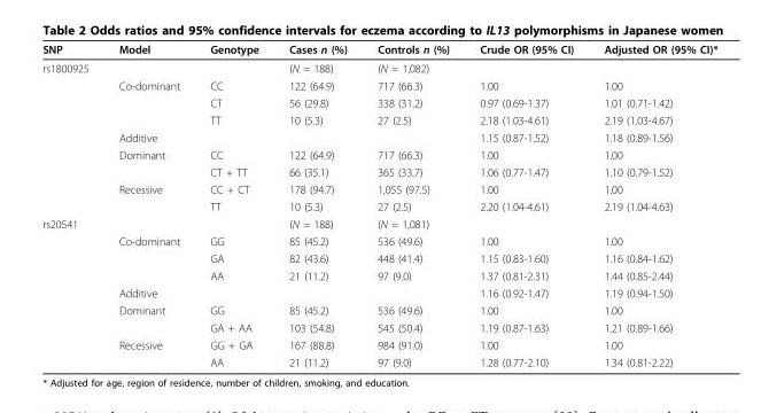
<table><thead><tr><td>SNP</td><td>Model</td><td>Genotype</td><td>Cases n (%)</td><td>Controls n (%)</td><td>Crude OR (95% CI)</td><td>Adjusted OR (95% CI)*</td></tr></thead><tbody><tr><td rowspan="9">rs1800925</td><td></td><td></td><td>(N = 188)</td><td>(N = 1,082)</td><td></td><td></td></tr><tr><td>Co-dominant</td><td>CC</td><td>122 (64.9)</td><td>717 (66.3)</td><td>1.00</td><td>1.00</td></tr><tr><td></td><td>CT</td><td>56 (29.8)</td><td>338 (31.2)</td><td>0.97 (0.69-1.37)</td><td>1.01 (0.71-1.42)</td></tr><tr><td></td><td>TT</td><td>10 (5.3)</td><td>27 (2.5)</td><td>2.18 (1.03-4.61)</td><td>2.19 (1.03-4.67)</td></tr><tr><td>Additive</td><td></td><td></td><td></td><td>1.15 (0.87-1.52)</td><td>1.18 (0.89-1.56)</td></tr><tr><td>Dominant</td><td>CC</td><td>122 (64.9)</td><td>717 (66.3)</td><td>1.00</td><td>1.00</td></tr><tr><td></td><td>CT + TT</td><td>66 (35.1)</td><td>365 (33.7)</td><td>1.06 (0.77-1.47)</td><td>1.10 (0.79-1.52)</td></tr><tr><td>Recessive</td><td>CC + CT</td><td>178 (94.7)</td><td>1,055 (97.5)</td><td>1.00</td><td>1.00</td></tr><tr><td></td><td>TT</td><td>10 (5.3)</td><td>27 (2.5)</td><td>2.20 (1.04-4.61)</td><td>2.19 (1.04-4.63)</td></tr><tr><td rowspan="9">rs20541</td><td></td><td></td><td>(N = 188)</td><td>(N = 1,081)</td><td></td><td></td></tr><tr><td>Co-dominant</td><td>GG</td><td>85 (45.2)</td><td>536 (49.6)</td><td>1.00</td><td>1.00</td></tr><tr><td></td><td>GA</td><td>82 (43.6)</td><td>448 (41.4)</td><td>1.15 (0.83-1.60)</td><td>1.16 (0.84-1.62)</td></tr><tr><td></td><td>AA</td><td>21 (11.2)</td><td>97 (9.0)</td><td>1.37 (0.81-2.31)</td><td>1.44 (0.85-2.44)</td></tr><tr><td>Additive</td><td></td><td></td><td></td><td>1.16 (0.92-1.47)</td><td>1.19 (0.94-1.50)</td></tr><tr><td>Dominant</td><td>GG</td><td>85 (45.2)</td><td>536 (49.6)</td><td>1.00</td><td>1.00</td></tr><tr><td></td><td>GA + AA</td><td>103 (54.8)</td><td>545 (50.4)</td><td>1.19 (0.87-1.63)</td><td>1.21 (0.89-1.66)</td></tr><tr><td>Recessive</td><td>GG + GA</td><td>167 (88.8)</td><td>984 (91.0)</td><td>1.00</td><td>1.00</td></tr><tr><td></td><td>AA</td><td>21 (11.2)</td><td>97 (9.0)</td><td>1.28 (0.77-2.10)</td><td>1.34 (0.81-2.22)</td></tr></tbody></table>